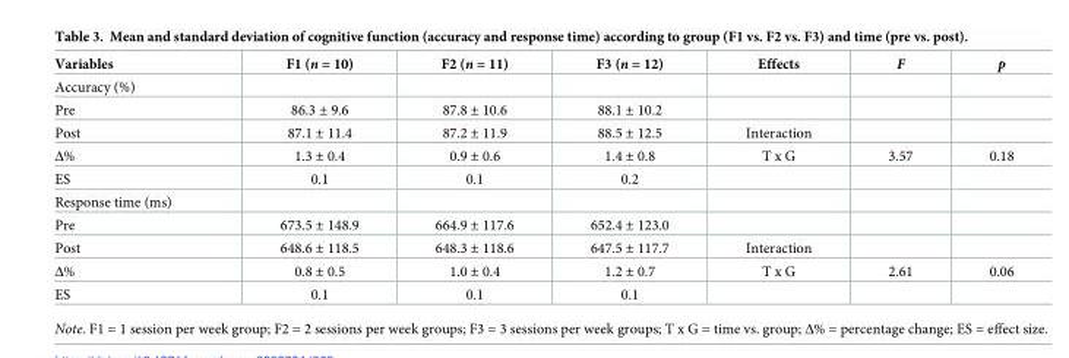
<table><thead><tr><td>Variables</td><td>F1 (n = 10)</td><td>F2 (n = 11)</td><td>F3 (n = 12)</td><td>Effects</td><td>F</td><td>p</td></tr></thead><tbody><tr><td colspan="7">Accuracy (%)</td></tr><tr><td>Pre</td><td>86.3 ± 9.6</td><td>87.8 ± 10.6</td><td>88.1 ± 10.2</td><td></td><td></td><td></td></tr><tr><td>Post</td><td>87.1 ± 11.4</td><td>87.2 ± 11.9</td><td>88.5 ± 12.5</td><td>Interaction</td><td></td><td></td></tr><tr><td>Δ%</td><td>1.3 ± 0.4</td><td>0.9 ± 0.6</td><td>1.4 ± 0.8</td><td>T x G</td><td>3.57</td><td>0.18</td></tr><tr><td>ES</td><td>0.1</td><td>0.1</td><td>0.2</td><td></td><td></td><td></td></tr><tr><td colspan="7">Response time (ms)</td></tr><tr><td>Pre</td><td>673.5 ± 148.9</td><td>664.9 ± 117.6</td><td>652.4 ± 123.0</td><td></td><td></td><td></td></tr><tr><td>Post</td><td>648.6 ± 118.5</td><td>648.3 ± 118.6</td><td>647.5 ± 117.7</td><td>Interaction</td><td></td><td></td></tr><tr><td>Δ%</td><td>0.8 ± 0.5</td><td>1.0 ± 0.4</td><td>1.2 ± 0.7</td><td>T x G</td><td>2.61</td><td>0.06</td></tr><tr><td>ES</td><td>0.1</td><td>0.1</td><td>0.1</td><td></td><td></td><td></td></tr></tbody></table>